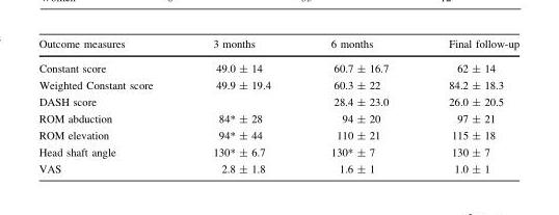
<table><thead><tr><td>Outcome measures</td><td>3 months</td><td>6 months</td><td>Final follow-up</td></tr></thead><tbody><tr><td>Constant score</td><td>49.0 ± 14</td><td>60.7 ± 16.7</td><td>62 ± 14</td></tr><tr><td>Weighted Constant score</td><td>49.9 ± 19.4</td><td>60.3 ± 22</td><td>84.2 ± 18.3</td></tr><tr><td>DASH score</td><td></td><td>28.4 ± 23.0</td><td>26.0 ± 20.5</td></tr><tr><td>ROM abduction</td><td>84* ± 28</td><td>94 ± 20</td><td>97 ± 21</td></tr><tr><td>ROM elevation</td><td>94* ± 44</td><td>110 ± 21</td><td>115 ± 18</td></tr><tr><td>Head shaft angle</td><td>130* ± 6.7</td><td>130* ± 7</td><td>130 ± 7</td></tr><tr><td>VAS</td><td>2.8 ± 1.8</td><td>1.6 ± 1</td><td>1.0 ± 1</td></tr></tbody></table>